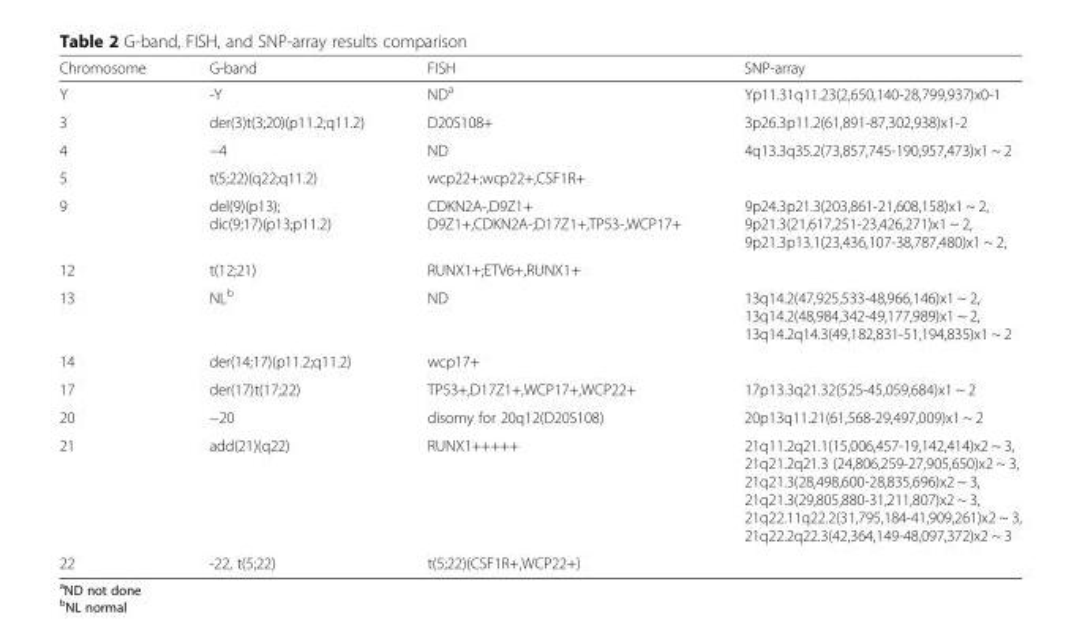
<table><thead><tr><td>Chromosome</td><td>G-band</td><td>FISH</td><td>SNP-array</td></tr></thead><tbody><tr><td>Y</td><td>-Y</td><td>ND<sup>a</sup></td><td>Yp11.31q11.23(2,650,140-28,799,937)x0-1</td></tr><tr><td>3</td><td>der(3)t(3;20)(p11.2;q11.2)</td><td>D20S108+</td><td>3p26.3p11.2(61,891-87,302,938)x1-2</td></tr><tr><td>4</td><td>−4</td><td>ND</td><td>4q13.3q35.2(73,857,745-190,957,473)x1 ~ 2</td></tr><tr><td>5</td><td>t(5;22)(q22;q11.2)</td><td>wcp22+;wcp22+,CSF1R+</td><td></td></tr><tr><td>9</td><td>del(9)(p13); dic(9;17)(p13;p11.2)</td><td>CDKN2A-,D9Z1+ D9Z1+,CDKN2A-;D17Z1+,TP53-,WCP17+</td><td>9p24.3p21.3(203,861-21,608,158)x1 ~ 2, 9p21.3(21,617,251-23,426,271)x1 ~ 2, 9p21.3p13.1(23,436,107-38,787,480)x1 ~ 2,</td></tr><tr><td>12</td><td>t(12;21)</td><td>RUNX1+;ETV6+,RUNX1+</td><td></td></tr><tr><td>13</td><td>NL<sup>b</sup></td><td>ND</td><td>13q14.2(47,925,533-48,966,146)x1 ~ 2, 13q14.2(48,984,342-49,177,989)x1 ~ 2, 13q14.2q14.3(49,182,831-51,194,835)x1 ~ 2</td></tr><tr><td>14</td><td>der(14;17)(p11.2;q11.2)</td><td>wcp17+</td><td></td></tr><tr><td>17</td><td>der(17)t(17;22)</td><td>TP53+,D17Z1+,WCP17+,WCP22+</td><td>17p13.3q21.32(525-45,059,684)x1 ~ 2</td></tr><tr><td>20</td><td>−20</td><td>disomy for 20q12(D20S108)</td><td>20p13q11.21(61,568-29,497,009)x1 ~ 2</td></tr><tr><td>21</td><td>add(21)(q22)</td><td>RUNX1+++++</td><td>21q11.2q21.1(15,006,457-19,142,414)x2 ~ 3, 21q21.2q21.3 (24,806,259-27,905,650)x2 ~ 3, 21q21.3(28,498,600-28,835,696)x2 ~ 3, 21q21.3(29,805,880-31,211,807)x2 ~ 3, 21q22.11q22.2(31,795,184-41,909,261)x2 ~ 3, 21q22.2q22.3(42,364,149-48,097,372)x2 ~ 3</td></tr><tr><td>22</td><td>-22, t(5;22)</td><td>t(5;22)(CSF1R+,WCP22+)</td><td></td></tr></tbody></table>